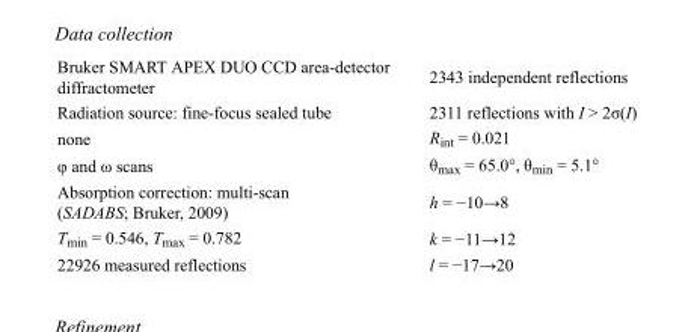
<table><tbody><tr><td>Bruker SMART APEX DUO CCD area-detector diffractometer</td><td>2343 independent reflections</td></tr><tr><td>Radiation source: fine-focus sealed tube</td><td>2311 reflections with I &gt; 2σ(I)</td></tr><tr><td>none</td><td>R<sub>int</sub> = 0.021</td></tr><tr><td>φ and ω scans</td><td>θ<sub>max</sub> = 65.0°, θ<sub>min</sub> = 5.1°</td></tr><tr><td>Absorption correction: multi-scan (SADABS; Bruker, 2009)</td><td>h = −10→8</td></tr><tr><td>T<sub>min</sub> = 0.546, T<sub>max</sub> = 0.782</td><td>k = −11→12</td></tr><tr><td>22926 measured reflections</td><td>l = −17→20</td></tr></tbody></table>